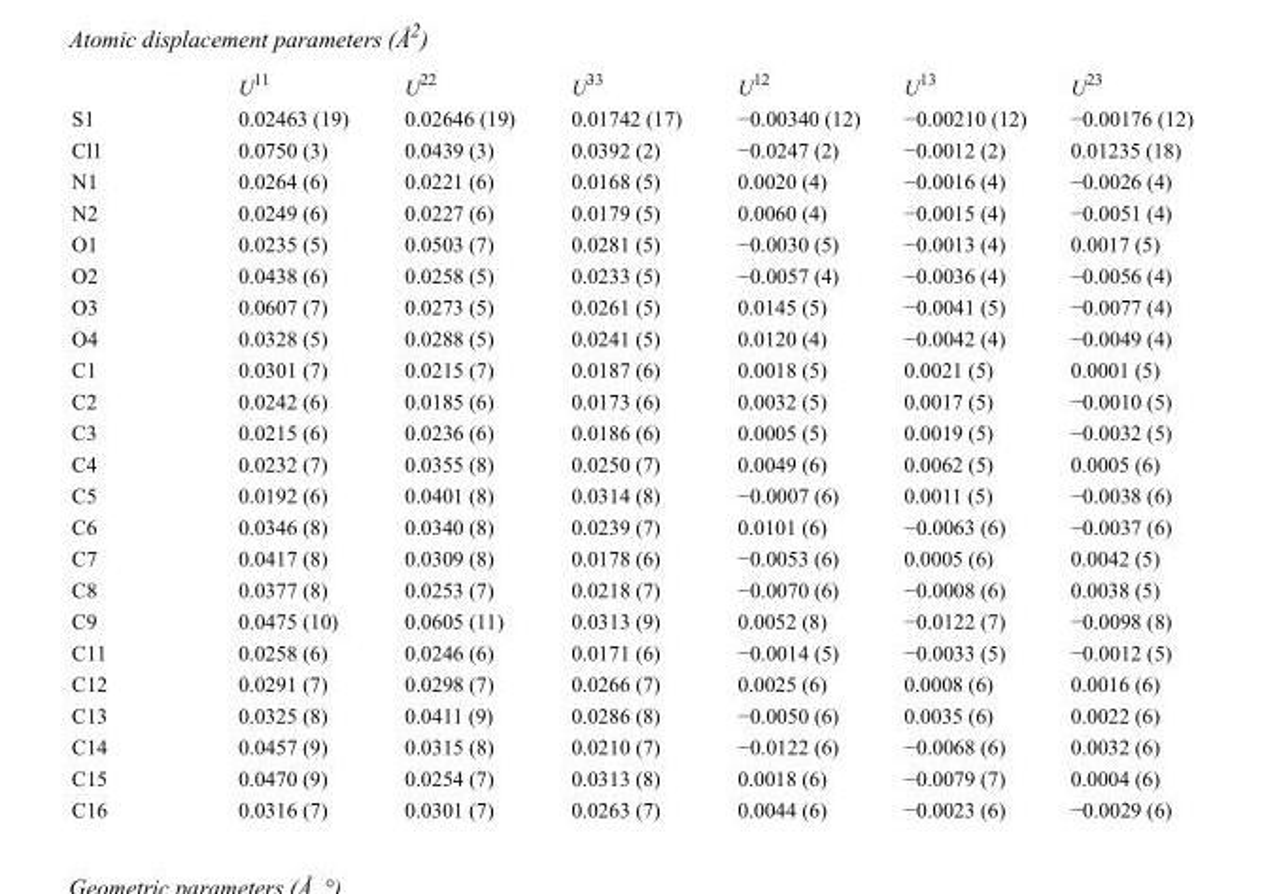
<table><thead><tr><td></td><td>U<sup>11</sup></td><td>U<sup>22</sup></td><td>U<sup>33</sup></td><td>U<sup>12</sup></td><td>U<sup>13</sup></td><td>U<sup>23</sup></td></tr></thead><tbody><tr><td>S1</td><td>0.02463 (19)</td><td>0.02646 (19)</td><td>0.01742 (17)</td><td>−0.00340 (12)</td><td>−0.00210 (12)</td><td>−0.00176 (12)</td></tr><tr><td>Cl1</td><td>0.0750 (3)</td><td>0.0439 (3)</td><td>0.0392 (2)</td><td>−0.0247 (2)</td><td>−0.0012 (2)</td><td>0.01235 (18)</td></tr><tr><td>N1</td><td>0.0264 (6)</td><td>0.0221 (6)</td><td>0.0168 (5)</td><td>0.0020 (4)</td><td>−0.0016 (4)</td><td>−0.0026 (4)</td></tr><tr><td>N2</td><td>0.0249 (6)</td><td>0.0227 (6)</td><td>0.0179 (5)</td><td>0.0060 (4)</td><td>−0.0015 (4)</td><td>−0.0051 (4)</td></tr><tr><td>O1</td><td>0.0235 (5)</td><td>0.0503 (7)</td><td>0.0281 (5)</td><td>−0.0030 (5)</td><td>−0.0013 (4)</td><td>0.0017 (5)</td></tr><tr><td>O2</td><td>0.0438 (6)</td><td>0.0258 (5)</td><td>0.0233 (5)</td><td>−0.0057 (4)</td><td>−0.0036 (4)</td><td>−0.0056 (4)</td></tr><tr><td>O3</td><td>0.0607 (7)</td><td>0.0273 (5)</td><td>0.0261 (5)</td><td>0.0145 (5)</td><td>−0.0041 (5)</td><td>−0.0077 (4)</td></tr><tr><td>O4</td><td>0.0328 (5)</td><td>0.0288 (5)</td><td>0.0241 (5)</td><td>0.0120 (4)</td><td>−0.0042 (4)</td><td>−0.0049 (4)</td></tr><tr><td>C1</td><td>0.0301 (7)</td><td>0.0215 (7)</td><td>0.0187 (6)</td><td>0.0018 (5)</td><td>0.0021 (5)</td><td>0.0001 (5)</td></tr><tr><td>C2</td><td>0.0242 (6)</td><td>0.0185 (6)</td><td>0.0173 (6)</td><td>0.0032 (5)</td><td>0.0017 (5)</td><td>−0.0010 (5)</td></tr><tr><td>C3</td><td>0.0215 (6)</td><td>0.0236 (6)</td><td>0.0186 (6)</td><td>0.0005 (5)</td><td>0.0019 (5)</td><td>−0.0032 (5)</td></tr><tr><td>C4</td><td>0.0232 (7)</td><td>0.0355 (8)</td><td>0.0250 (7)</td><td>0.0049 (6)</td><td>0.0062 (5)</td><td>0.0005 (6)</td></tr><tr><td>C5</td><td>0.0192 (6)</td><td>0.0401 (8)</td><td>0.0314 (8)</td><td>−0.0007 (6)</td><td>0.0011 (5)</td><td>−0.0038 (6)</td></tr><tr><td>C6</td><td>0.0346 (8)</td><td>0.0340 (8)</td><td>0.0239 (7)</td><td>0.0101 (6)</td><td>−0.0063 (6)</td><td>−0.0037 (6)</td></tr><tr><td>C7</td><td>0.0417 (8)</td><td>0.0309 (8)</td><td>0.0178 (6)</td><td>−0.0053 (6)</td><td>0.0005 (6)</td><td>0.0042 (5)</td></tr><tr><td>C8</td><td>0.0377 (8)</td><td>0.0253 (7)</td><td>0.0218 (7)</td><td>−0.0070 (6)</td><td>−0.0008 (6)</td><td>0.0038 (5)</td></tr><tr><td>C9</td><td>0.0475 (10)</td><td>0.0605 (11)</td><td>0.0313 (9)</td><td>0.0052 (8)</td><td>−0.0122 (7)</td><td>−0.0098 (8)</td></tr><tr><td>C11</td><td>0.0258 (6)</td><td>0.0246 (6)</td><td>0.0171 (6)</td><td>−0.0014 (5)</td><td>−0.0033 (5)</td><td>−0.0012 (5)</td></tr><tr><td>C12</td><td>0.0291 (7)</td><td>0.0298 (7)</td><td>0.0266 (7)</td><td>0.0025 (6)</td><td>0.0008 (6)</td><td>0.0016 (6)</td></tr><tr><td>C13</td><td>0.0325 (8)</td><td>0.0411 (9)</td><td>0.0286 (8)</td><td>−0.0050 (6)</td><td>0.0035 (6)</td><td>0.0022 (6)</td></tr><tr><td>C14</td><td>0.0457 (9)</td><td>0.0315 (8)</td><td>0.0210 (7)</td><td>−0.0122 (6)</td><td>−0.0068 (6)</td><td>0.0032 (6)</td></tr><tr><td>C15</td><td>0.0470 (9)</td><td>0.0254 (7)</td><td>0.0313 (8)</td><td>0.0018 (6)</td><td>−0.0079 (7)</td><td>0.0004 (6)</td></tr><tr><td>C16</td><td>0.0316 (7)</td><td>0.0301 (7)</td><td>0.0263 (7)</td><td>0.0044 (6)</td><td>−0.0023 (6)</td><td>−0.0029 (6)</td></tr></tbody></table>